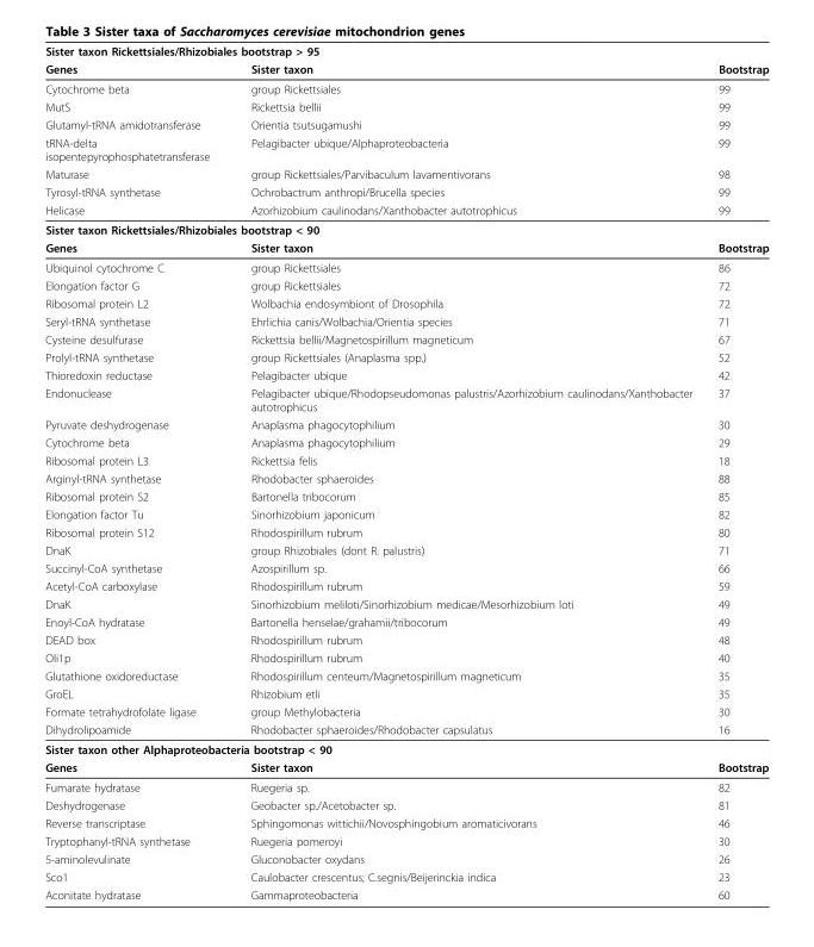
<table><thead><tr><td colspan="3">Sister taxon Rickettsiales/Rhizobiales bootstrap &gt; 95</td></tr><tr><td>Genes</td><td>Sister taxon</td><td>Bootstrap</td></tr></thead><tbody><tr><td>Cytochrome beta</td><td>group Rickettsiales</td><td>99</td></tr><tr><td>MutS</td><td>Rickettsia bellii</td><td>99</td></tr><tr><td>Glutamyl-tRNA amidotransferase</td><td>Orientia tsutsugamushi</td><td>99</td></tr><tr><td>tRNA-delta isopentepyrophosphatetransferase</td><td>Pelagibacter ubique/Alphaproteobacteria</td><td>99</td></tr><tr><td>Maturase</td><td>group Rickettsiales/Parvibaculum lavamentivorans</td><td>98</td></tr><tr><td>Tyrosyl-tRNA synthetase</td><td>Ochrobactrum anthropi/Brucella species</td><td>99</td></tr><tr><td>Helicase</td><td>Azorhizobium caulinodans/Xanthobacter autotrophicus</td><td>99</td></tr><tr><td colspan="3">Sister taxon Rickettsiales/Rhizobiales bootstrap &lt; 90</td></tr><tr><td>Genes</td><td>Sister taxon</td><td>Bootstrap</td></tr><tr><td>Ubiquinol cytochrome C</td><td>group Rickettsiales</td><td>86</td></tr><tr><td>Elongation factor G</td><td>group Rickettsiales</td><td>72</td></tr><tr><td>Ribosomal protein L2</td><td>Wolbachia endosymbiont of Drosophila</td><td>72</td></tr><tr><td>Seryl-tRNA synthetase</td><td>Ehrlichia canis/Wolbachia/Orientia species</td><td>71</td></tr><tr><td>Cysteine desulfurase</td><td>Rickettsia bellii/Magnetospirillum magneticum</td><td>67</td></tr><tr><td>Prolyl-tRNA synthetase</td><td>group Rickettsiales (Anaplasma spp.)</td><td>52</td></tr><tr><td>Thioredoxin reductase</td><td>Pelagibacter ubique</td><td>42</td></tr><tr><td>Endonuclease</td><td>Pelagibacter ubique/Rhodopseudomonas palustris/Azorhizobium caulinodans/Xanthobacter autotrophicus</td><td>37</td></tr><tr><td>Pyruvate deshydrogenase</td><td>Anaplasma phagocytophilium</td><td>30</td></tr><tr><td>Cytochrome beta</td><td>Anaplasma phagocytophilium</td><td>29</td></tr><tr><td>Ribosomal protein L3</td><td>Rickettsia felis</td><td>18</td></tr><tr><td>Arginyl-tRNA synthetase</td><td>Rhodobacter sphaeroides</td><td>88</td></tr><tr><td>Ribosomal protein S2</td><td>Bartonella tribocorum</td><td>85</td></tr><tr><td>Elongation factor Tu</td><td>Sinorhizobium japonicum</td><td>82</td></tr><tr><td>Ribosomal protein S12</td><td>Rhodospirillum rubrum</td><td>80</td></tr><tr><td>DnaK</td><td>group Rhizobiales (dont R. palustris)</td><td>71</td></tr><tr><td>Succinyl-CoA synthetase</td><td>Azospirillum sp.</td><td>66</td></tr><tr><td>Acetyl-CoA carboxylase</td><td>Rhodospirillum rubrum</td><td>59</td></tr><tr><td>DnaK</td><td>Sinorhizobium meliloti/Sinorhizobium medicae/Mesorhizobium loti</td><td>49</td></tr><tr><td>Enoyl-CoA hydratase</td><td>Bartonella henselae/grahamii/tribocorum</td><td>49</td></tr><tr><td>DEAD box</td><td>Rhodospirillum rubrum</td><td>48</td></tr><tr><td>Oli1p</td><td>Rhodospirillum rubrum</td><td>40</td></tr><tr><td>Glutathione oxidoreductase</td><td>Rhodospirillum centeum/Magnetospirillum magneticum</td><td>35</td></tr><tr><td>GroEL</td><td>Rhizobium etli</td><td>35</td></tr><tr><td>Formate tetrahydrofolate ligase</td><td>group Methylobacteria</td><td>30</td></tr><tr><td>Dihydrolipoamide</td><td>Rhodobacter sphaeroides/Rhodobacter capsulatus</td><td>16</td></tr><tr><td colspan="3">Sister taxon other Alphaproteobacteria bootstrap &lt; 90</td></tr><tr><td>Genes</td><td>Sister taxon</td><td>Bootstrap</td></tr><tr><td>Fumarate hydratase</td><td>Ruegeria sp.</td><td>82</td></tr><tr><td>Deshydrogenase</td><td>Geobacter sp./Acetobacter sp.</td><td>81</td></tr><tr><td>Reverse transcriptase</td><td>Sphingomonas wittichii/Novosphingobium aromaticivorans</td><td>46</td></tr><tr><td>Tryptophanyl-tRNA synthetase</td><td>Ruegeria pomeroyi</td><td>30</td></tr><tr><td>5-aminolevulinate</td><td>Gluconobacter oxydans</td><td>26</td></tr><tr><td>Sco1</td><td>Caulobacter crescentus; C.segnis/Beijerinckia indica</td><td>23</td></tr><tr><td>Aconitate hydratase</td><td>Gammaproteobacteria</td><td>60</td></tr></tbody></table>